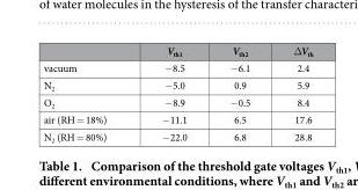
<table><thead><tr><td></td><td>V<sub>th1</sub></td><td>V<sub>th2</sub></td><td>ΔV<sub>th</sub></td></tr></thead><tbody><tr><td>vacuum</td><td>− 8.5</td><td>− 6.1</td><td>2.4</td></tr><tr><td>N<sub>2</sub></td><td>− 5.0</td><td>0.9</td><td>5.9</td></tr><tr><td>O<sub>2</sub></td><td>− 8.9</td><td>− 0.5</td><td>8.4</td></tr><tr><td>air (RH = 18%)</td><td>− 11.1</td><td>6.5</td><td>17.6</td></tr><tr><td>N<sub>2</sub> (RH = 80%)</td><td>− 22.0</td><td>6.8</td><td>28.8</td></tr></tbody></table>